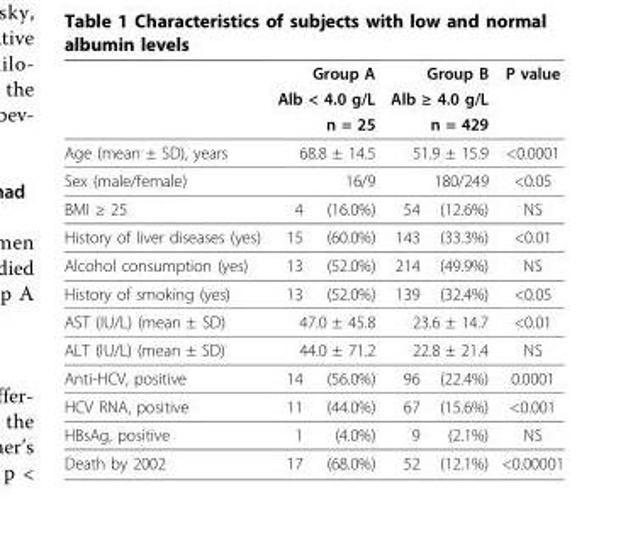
<table><thead><tr><td rowspan="6">Age (mean ± SD), years Sex (male/female) BMI ≥ 25</td><td rowspan="5" colspan="2">Group A Alb &lt; 4.0 g/L n = 25 68.8 ± 14.5 16/9</td><td rowspan="5" colspan="2">Group B Alb ≥ 4.0 g/L n = 429 51.9 ± 15.9 180/249</td><td rowspan="6">P value &lt;0.0001 &lt;0.05 NS</td></tr><tr></tr><tr></tr><tr></tr><tr></tr><tr><td>4</td><td>(16.0%)</td><td>54</td><td>(12.6%)</td></tr></thead><tbody><tr><td>History of liver diseases (yes)</td><td>15</td><td>(60.0%)</td><td>143</td><td>(33.3%)</td><td>&lt;0.01</td></tr><tr><td>Alcohol consumption (yes)</td><td>13</td><td>(52.0%)</td><td>214</td><td>(49.9%)</td><td>NS</td></tr><tr><td>History of smoking (yes)</td><td>13</td><td>(52.0%)</td><td>139</td><td>(32.4%)</td><td>&lt;0.05</td></tr><tr><td>AST (IU/L) (mean ± SD)</td><td colspan="2">47.0 ± 45.8</td><td colspan="2">23.6 ± 14.7</td><td>&lt;0.01</td></tr><tr><td>ALT (IU/L) (mean ± SD)</td><td colspan="2">44.0 ± 71.2</td><td colspan="2">22.8 ± 21.4</td><td>NS</td></tr><tr><td>Anti-HCV, positive</td><td>14</td><td>(56.0%)</td><td>96</td><td>(22.4%)</td><td>0.0001</td></tr><tr><td>HCV RNA, positive</td><td>11</td><td>(44.0%)</td><td>67</td><td>(15.6%)</td><td>&lt;0.001</td></tr><tr><td>HBsAg, positive</td><td>1</td><td>(4.0%)</td><td>9</td><td>(2.1%)</td><td>NS</td></tr><tr><td>Death by 2002</td><td>17</td><td>(68.0%)</td><td>52</td><td>(12.1%)</td><td>&lt;0.00001</td></tr></tbody></table>